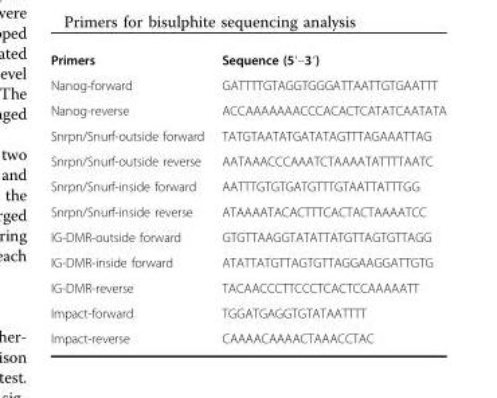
<table><tbody><tr><td>Primers</td><td>Sequence (5′–3′)</td></tr><tr><td>Nanog-forward</td><td>GATTTTGTAGGTGGGATTAATTGTGAATTT</td></tr><tr><td>Nanog-reverse</td><td>ACCAAAAAAACCCACACTCATATCAATATA</td></tr><tr><td>Snrpn/Snurf-outside forward</td><td>TATGTAATATGATATAGTTTAGAAATTAG</td></tr><tr><td>Snrpn/Snurf-outside reverse</td><td>AATAAACCCAAATCTAAAATATTTTAATC</td></tr><tr><td>Snrpn/Snurf-inside forward</td><td>AATTTGTGTGATGTTTGTAATTATTTGG</td></tr><tr><td>Snrpn/Snurf-inside reverse</td><td>ATAAAATACACTTTCACTACTAAAATCC</td></tr><tr><td>IG-DMR-outside forward</td><td>GTGTTAAGGTATATTATGTTAGTGTTAGG</td></tr><tr><td>IG-DMR-inside forward</td><td>ATATTATGTTAGTGTTAGGAAGGATTGTG</td></tr><tr><td>IG-DMR-reverse</td><td>TACAACCCTTCCCTCACTCCAAAAATT</td></tr><tr><td>Impact-forward</td><td>TGGATGAGGTGTATAATTTT</td></tr><tr><td>Impact-reverse</td><td>CAAAACAAAACTAAACCTAC</td></tr></tbody></table>